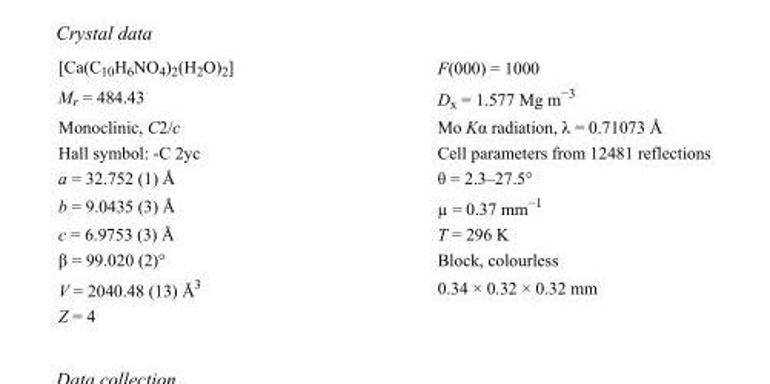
<table><tbody><tr><td>[Ca(C<sub>10</sub>H<sub>6</sub>NO<sub>4</sub>)<sub>2</sub>(H<sub>2</sub>O)<sub>2</sub>]</td><td>F(000) = 1000</td></tr><tr><td>M<sub>r</sub> = 484.43</td><td>D<sub>x</sub> = 1.577 Mg m<sup>−3</sup></td></tr><tr><td>Monoclinic, C2/c</td><td>Mo Kα radiation, λ = 0.71073 Å</td></tr><tr><td>Hall symbol: -C 2yc</td><td>Cell parameters from 12481 reflections</td></tr><tr><td>a = 32.752 (1) Å</td><td>θ = 2.3–27.5°</td></tr><tr><td>b = 9.0435 (3) Å</td><td>µ = 0.37 mm<sup>−1</sup></td></tr><tr><td>c = 6.9753 (3) Å</td><td>T = 296 K</td></tr><tr><td>β = 99.020 (2)°</td><td>Block, colourless</td></tr><tr><td>V = 2040.48 (13) Å<sup>3</sup></td><td>0.34 × 0.32 × 0.32 mm</td></tr><tr><td>Z = 4</td><td></td></tr></tbody></table>